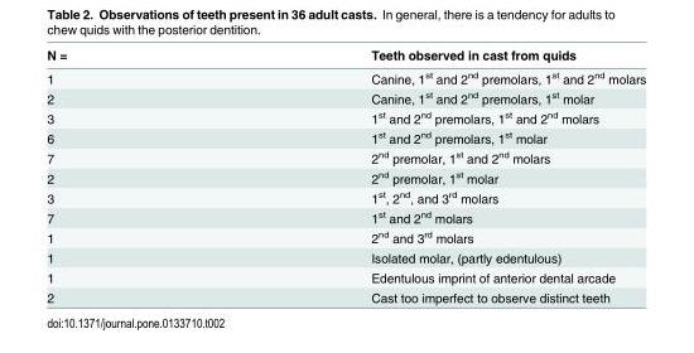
<table><thead><tr><td>N =</td><td>Teeth observed in cast from quids</td></tr></thead><tbody><tr><td>1</td><td>Canine, 1<sup>st</sup> and 2<sup>nd</sup> premolars, 1<sup>st</sup> and 2<sup>nd</sup> molars</td></tr><tr><td>2</td><td>Canine, 1<sup>st</sup> and 2<sup>nd</sup> premolars, 1<sup>st</sup> molar</td></tr><tr><td>3</td><td>1<sup>st</sup> and 2<sup>nd</sup> premolars, 1<sup>st</sup> and 2<sup>nd</sup> molars</td></tr><tr><td>6</td><td>1<sup>st</sup> and 2<sup>nd</sup> premolars, 1<sup>st</sup> molar</td></tr><tr><td>7</td><td>2<sup>nd</sup> premolar, 1<sup>st</sup> and 2<sup>nd</sup> molars</td></tr><tr><td>2</td><td>2<sup>nd</sup> premolar, 1<sup>st</sup> molar</td></tr><tr><td>3</td><td>1<sup>st</sup>, 2<sup>nd</sup>, and 3<sup>rd</sup> molars</td></tr><tr><td>7</td><td>1<sup>st</sup> and 2<sup>nd</sup> molars</td></tr><tr><td>1</td><td>2<sup>nd</sup> and 3<sup>rd</sup> molars</td></tr><tr><td>1</td><td>Isolated molar, (partly edentulous)</td></tr><tr><td>1</td><td>Edentulous imprint of anterior dental arcade</td></tr><tr><td>2</td><td>Cast too imperfect to observe distinct teeth</td></tr></tbody></table>